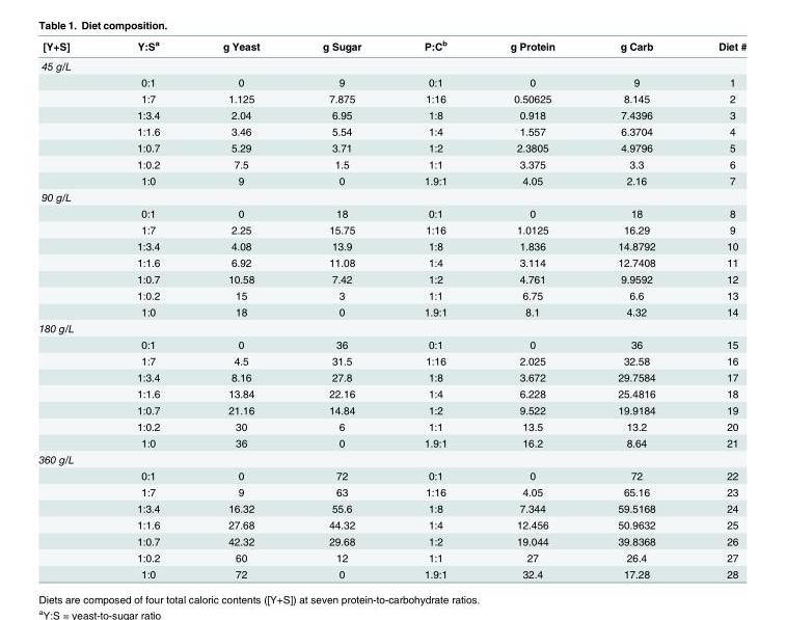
<table><thead><tr><td>[Y+S]</td><td>Y:S<sup>a</sup></td><td>g Yeast</td><td>g Sugar</td><td>P:C<sup>b</sup></td><td>g Protein</td><td>g Carb</td><td>Diet #</td></tr></thead><tbody><tr><td colspan="8">45 g/L</td></tr><tr><td></td><td>0:1</td><td>0</td><td>9</td><td>0:1</td><td>0</td><td>9</td><td>1</td></tr><tr><td></td><td>1:7</td><td>1.125</td><td>7.875</td><td>1:16</td><td>0.50625</td><td>8.145</td><td>2</td></tr><tr><td></td><td>1:3.4</td><td>2.04</td><td>6.95</td><td>1:8</td><td>0.918</td><td>7.4396</td><td>3</td></tr><tr><td></td><td>1:1.6</td><td>3.46</td><td>5.54</td><td>1:4</td><td>1.557</td><td>6.3704</td><td>4</td></tr><tr><td></td><td>1:0.7</td><td>5.29</td><td>3.71</td><td>1:2</td><td>2.3805</td><td>4.9796</td><td>5</td></tr><tr><td></td><td>1:0.2</td><td>7.5</td><td>1.5</td><td>1:1</td><td>3.375</td><td>3.3</td><td>6</td></tr><tr><td></td><td>1:0</td><td>9</td><td>0</td><td>1.9:1</td><td>4.05</td><td>2.16</td><td>7</td></tr><tr><td colspan="8">90 g/L</td></tr><tr><td></td><td>0:1</td><td>0</td><td>18</td><td>0:1</td><td>0</td><td>18</td><td>8</td></tr><tr><td></td><td>1:7</td><td>2.25</td><td>15.75</td><td>1:16</td><td>1.0125</td><td>16.29</td><td>9</td></tr><tr><td></td><td>1:3.4</td><td>4.08</td><td>13.9</td><td>1:8</td><td>1.836</td><td>14.8792</td><td>10</td></tr><tr><td></td><td>1:1.6</td><td>6.92</td><td>11.08</td><td>1:4</td><td>3.114</td><td>12.7408</td><td>11</td></tr><tr><td></td><td>1:0.7</td><td>10.58</td><td>7.42</td><td>1:2</td><td>4.761</td><td>9.9592</td><td>12</td></tr><tr><td></td><td>1:0.2</td><td>15</td><td>3</td><td>1:1</td><td>6.75</td><td>6.6</td><td>13</td></tr><tr><td></td><td>1:0</td><td>18</td><td>0</td><td>1.9:1</td><td>8.1</td><td>4.32</td><td>14</td></tr><tr><td colspan="8">180 g/L</td></tr><tr><td></td><td>0:1</td><td>0</td><td>36</td><td>0:1</td><td>0</td><td>36</td><td>15</td></tr><tr><td></td><td>1:7</td><td>4.5</td><td>31.5</td><td>1:16</td><td>2.025</td><td>32.58</td><td>16</td></tr><tr><td></td><td>1:3.4</td><td>8.16</td><td>27.8</td><td>1:8</td><td>3.672</td><td>29.7584</td><td>17</td></tr><tr><td></td><td>1:1.6</td><td>13.84</td><td>22.16</td><td>1:4</td><td>6.228</td><td>25.4816</td><td>18</td></tr><tr><td></td><td>1:0.7</td><td>21.16</td><td>14.84</td><td>1:2</td><td>9.522</td><td>19.9184</td><td>19</td></tr><tr><td></td><td>1:0.2</td><td>30</td><td>6</td><td>1:1</td><td>13.5</td><td>13.2</td><td>20</td></tr><tr><td></td><td>1:0</td><td>36</td><td>0</td><td>1.9:1</td><td>16.2</td><td>8.64</td><td>21</td></tr><tr><td colspan="8">360 g/L</td></tr><tr><td></td><td>0:1</td><td>0</td><td>72</td><td>0:1</td><td>0</td><td>72</td><td>22</td></tr><tr><td></td><td>1:7</td><td>9</td><td>63</td><td>1:16</td><td>4.05</td><td>65.16</td><td>23</td></tr><tr><td></td><td>1:3.4</td><td>16.32</td><td>55.6</td><td>1:8</td><td>7.344</td><td>59.5168</td><td>24</td></tr><tr><td></td><td>1:1.6</td><td>27.68</td><td>44.32</td><td>1:4</td><td>12.456</td><td>50.9632</td><td>25</td></tr><tr><td></td><td>1:0.7</td><td>42.32</td><td>29.68</td><td>1:2</td><td>19.044</td><td>39.8368</td><td>26</td></tr><tr><td></td><td>1:0.2</td><td>60</td><td>12</td><td>1:1</td><td>27</td><td>26.4</td><td>27</td></tr><tr><td></td><td>1:0</td><td>72</td><td>0</td><td>1.9:1</td><td>32.4</td><td>17.28</td><td>28</td></tr></tbody></table>